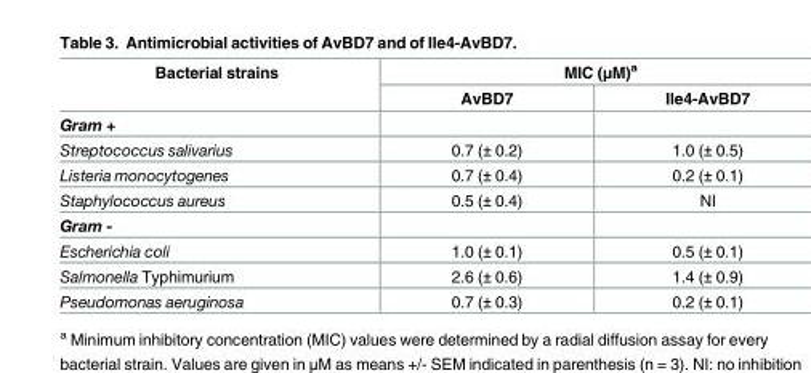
<table><thead><tr><td rowspan="2">Bacterial strains</td><td colspan="2">MIC (μM)<sup>a</sup></td></tr><tr><td>AvBD7</td><td>Ile4-AvBD7</td></tr></thead><tbody><tr><td colspan="3">Gram +</td></tr><tr><td>Streptococcus salivarius</td><td>0.7 (± 0.2)</td><td>1.0 (± 0.5)</td></tr><tr><td>Listeria monocytogenes</td><td>0.7 (± 0.4)</td><td>0.2 (± 0.1)</td></tr><tr><td>Staphylococcus aureus</td><td>0.5 (± 0.4)</td><td>NI</td></tr><tr><td colspan="3">Gram -</td></tr><tr><td>Escherichia coli</td><td>1.0 (± 0.1)</td><td>0.5 (± 0.1)</td></tr><tr><td>Salmonella Typhimurium</td><td>2.6 (± 0.6)</td><td>1.4 (± 0.9)</td></tr><tr><td>Pseudomonas aeruginosa</td><td>0.7 (± 0.3)</td><td>0.2 (± 0.1)</td></tr></tbody></table>